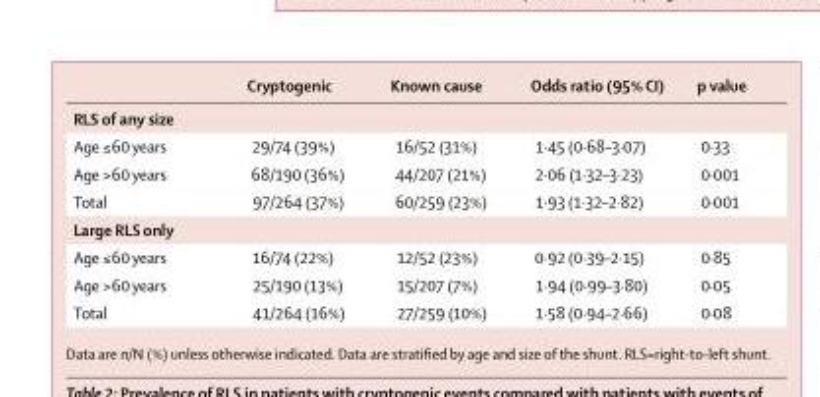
<table><thead><tr><td></td><td>Cryptogenic</td><td>Known cause</td><td>Odds ratio (95% CI)</td><td>p value</td></tr></thead><tbody><tr><td colspan="5">RLS of any size</td></tr><tr><td>Age ≤60 years</td><td>29/74 (39%)</td><td>16/52 (31%)</td><td>1·45 (0·68–3·07)</td><td>0·33</td></tr><tr><td>Age &gt;60 years</td><td>68/190 (36%)</td><td>44/207 (21%)</td><td>2·06 (1·32–3·23)</td><td>0·001</td></tr><tr><td>Total</td><td>97/264 (37%)</td><td>60/259 (23%)</td><td>1·93 (1·32–2·82)</td><td>0·001</td></tr><tr><td colspan="5">Large RLS only</td></tr><tr><td>Age ≤60 years</td><td>16/74 (22%)</td><td>12/52 (23%)</td><td>0·92 (0·39–2·15)</td><td>0·85</td></tr><tr><td>Age &gt;60 years</td><td>25/190 (13%)</td><td>15/207 (7%)</td><td>1·94 (0·99–3·80)</td><td>0·05</td></tr><tr><td>Total</td><td>41/264 (16%)</td><td>27/259 (10%)</td><td>1·58 (0·94–2·66)</td><td>0·08</td></tr></tbody></table>